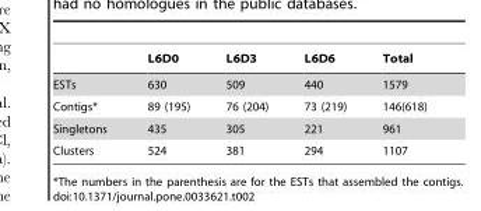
<table><thead><tr><td></td><td>L6D0</td><td>L6D3</td><td>L6D6</td><td>Total</td></tr></thead><tbody><tr><td>ESTs</td><td>630</td><td>509</td><td>440</td><td>1579</td></tr><tr><td>Contigs*</td><td>89 (195)</td><td>76 (204)</td><td>73 (219)</td><td>146(618)</td></tr><tr><td>Singletons</td><td>435</td><td>305</td><td>221</td><td>961</td></tr><tr><td>Clusters</td><td>524</td><td>381</td><td>294</td><td>1107</td></tr></tbody></table>